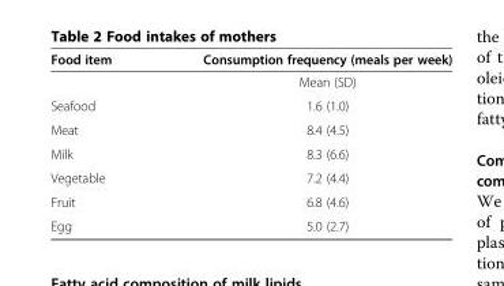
<table><thead><tr><td>Food item</td><td>Consumption frequency (meals per week)</td></tr></thead><tbody><tr><td></td><td>Mean (SD)</td></tr><tr><td>Seafood</td><td>1.6 (1.0)</td></tr><tr><td>Meat</td><td>8.4 (4.5)</td></tr><tr><td>Milk</td><td>8.3 (6.6)</td></tr><tr><td>Vegetable</td><td>7.2 (4.4)</td></tr><tr><td>Fruit</td><td>6.8 (4.6)</td></tr><tr><td>Egg</td><td>5.0 (2.7)</td></tr></tbody></table>